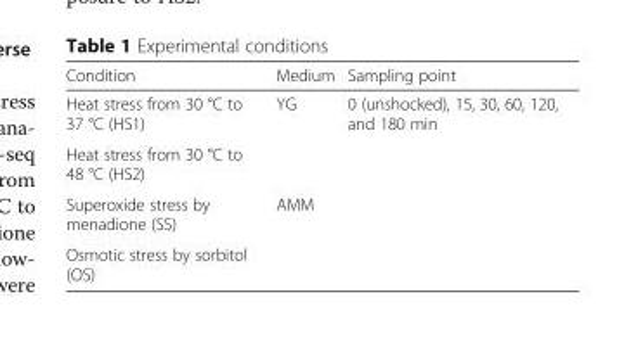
<table><thead><tr><td>Condition</td><td>Medium</td><td>Sampling point</td></tr></thead><tbody><tr><td>Heat stress from 30 °C to 37 °C (HS1)</td><td rowspan="2">YG</td><td rowspan="4">0 (unshocked), 15, 30, 60, 120, and 180 min</td></tr><tr><td>Heat stress from 30 °C to 48 °C (HS2)</td></tr><tr><td>Superoxide stress by menadione (SS)</td><td rowspan="2">AMM</td></tr><tr><td>Osmotic stress by sorbitol (OS)</td></tr></tbody></table>